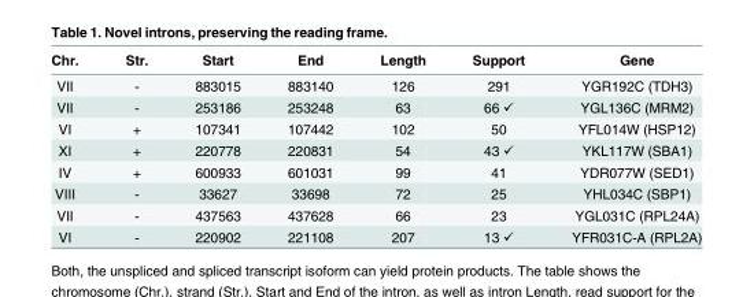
<table><thead><tr><td>Chr.</td><td>Str.</td><td>Start</td><td>End</td><td>Length</td><td>Support</td><td>Gene</td></tr></thead><tbody><tr><td>VII</td><td>-</td><td>883015</td><td>883140</td><td>126</td><td>291</td><td>YGR192C (TDH3)</td></tr><tr><td>VII</td><td>-</td><td>253186</td><td>253248</td><td>63</td><td>66 ✓</td><td>YGL136C (MRM2)</td></tr><tr><td>VI</td><td>+</td><td>107341</td><td>107442</td><td>102</td><td>50</td><td>YFL014W (HSP12)</td></tr><tr><td>XI</td><td>+</td><td>220778</td><td>220831</td><td>54</td><td>43 ✓</td><td>YKL117W (SBA1)</td></tr><tr><td>IV</td><td>+</td><td>600933</td><td>601031</td><td>99</td><td>41</td><td>YDR077W (SED1)</td></tr><tr><td>VIII</td><td>-</td><td>33627</td><td>33698</td><td>72</td><td>25</td><td>YHL034C (SBP1)</td></tr><tr><td>VII</td><td>-</td><td>437563</td><td>437628</td><td>66</td><td>23</td><td>YGL031C (RPL24A)</td></tr><tr><td>VI</td><td>-</td><td>220902</td><td>221108</td><td>207</td><td>13 ✓</td><td>YFR031C-A (RPL2A)</td></tr></tbody></table>